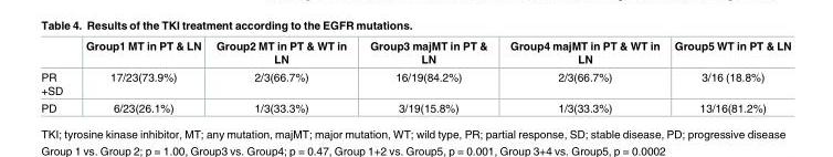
<table><thead><tr><td></td><td>Group1 MT in PT &amp; LN</td><td>Group2 MT in PT &amp; WT in LN</td><td>Group3 majMT in PT &amp; LN</td><td>Group4 majMT in PT &amp; WT in LN</td><td>Group5 WT in PT &amp; LN</td></tr></thead><tbody><tr><td>PR +SD</td><td>17/23(73.9%)</td><td>2/3(66.7%)</td><td>16/19(84.2%)</td><td>2/3(66.7%)</td><td>3/16 (18.8%)</td></tr><tr><td>PD</td><td>6/23(26.1%)</td><td>1/3(33.3%)</td><td>3/19(15.8%)</td><td>1/3(33.3%)</td><td>13/16(81.2%)</td></tr></tbody></table>